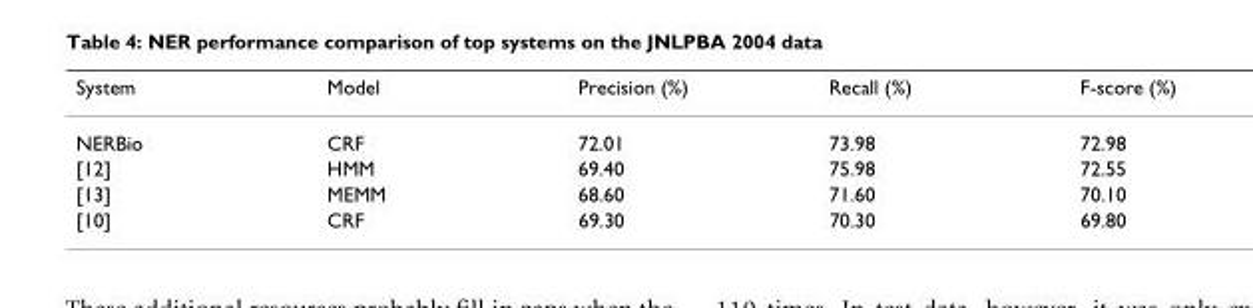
<table><thead><tr><td>System</td><td>Model</td><td>Precision (%)</td><td>Recall (%)</td><td>F-score (%)</td></tr></thead><tbody><tr><td>NERBio</td><td>CRF</td><td>72.01</td><td>73.98</td><td>72.98</td></tr><tr><td>[12]</td><td>HMM</td><td>69.40</td><td>75.98</td><td>72.55</td></tr><tr><td>[13]</td><td>MEMM</td><td>68.60</td><td>71.60</td><td>70.10</td></tr><tr><td>[10]</td><td>CRF</td><td>69.30</td><td>70.30</td><td>69.80</td></tr></tbody></table>